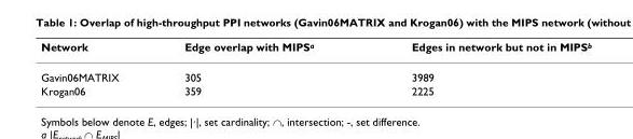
<table><thead><tr><td>Network</td><td>Edge overlap with MIPS<sup>a</sup></td><td>Edges in network but not in MIPS<sup>b</sup></td></tr></thead><tbody><tr><td>Gavin06MATRIX</td><td>305</td><td>3989</td></tr><tr><td>Krogan06</td><td>359</td><td>2225</td></tr></tbody></table>